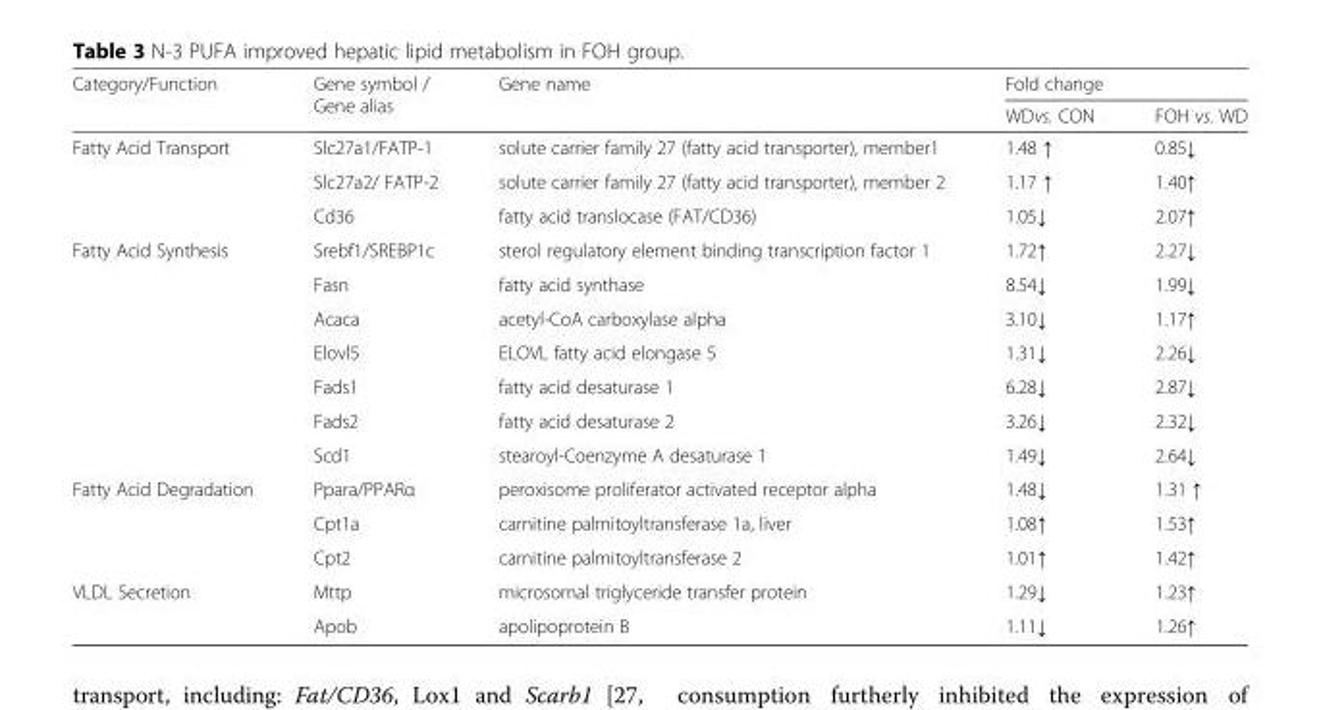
<table><thead><tr><td rowspan="2">Category/Function</td><td rowspan="2">Gene symbol / Gene alias</td><td rowspan="2">Gene name</td><td colspan="2">Fold change</td></tr><tr><td>WDvs. CON</td><td>FOH vs. WD</td></tr></thead><tbody><tr><td rowspan="3">Fatty Acid Transport</td><td>Slc27a1/FATP-1</td><td>solute carrier family 27 (fatty acid transporter), member1</td><td>1.48 ↑</td><td>0.85↓</td></tr><tr><td>Slc27a2/ FATP-2</td><td>solute carrier family 27 (fatty acid transporter), member 2</td><td>1.17 ↑</td><td>1.40↑</td></tr><tr><td>Cd36</td><td>fatty acid translocase (FAT/CD36)</td><td>1.05↓</td><td>2.07↑</td></tr><tr><td rowspan="7">Fatty Acid Synthesis</td><td>Srebf1/SREBP1c</td><td>sterol regulatory element binding transcription factor 1</td><td>1.72↑</td><td>2.27↓</td></tr><tr><td>Fasn</td><td>fatty acid synthase</td><td>8.54↓</td><td>1.99↓</td></tr><tr><td>Acaca</td><td>acetyl-CoA carboxylase alpha</td><td>3.10↓</td><td>1.17↑</td></tr><tr><td>Elovl5</td><td>ELOVL fatty acid elongase 5</td><td>1.31↓</td><td>2.26↓</td></tr><tr><td>Fads1</td><td>fatty acid desaturase 1</td><td>6.28↓</td><td>2.87↓</td></tr><tr><td>Fads2</td><td>fatty acid desaturase 2</td><td>3.26↓</td><td>2.32↓</td></tr><tr><td>Scd1</td><td>stearoyl-Coenzyme A desaturase 1</td><td>1.49↓</td><td>2.64↓</td></tr><tr><td rowspan="3">Fatty Acid Degradation</td><td>Ppara/PPARα</td><td>peroxisome proliferator activated receptor alpha</td><td>1.48↓</td><td>1.31 ↑</td></tr><tr><td>Cpt1a</td><td>carnitine palmitoyltransferase 1a, liver</td><td>1.08↑</td><td>1.53↑</td></tr><tr><td>Cpt2</td><td>carnitine palmitoyltransferase 2</td><td>1.01↑</td><td>1.42↑</td></tr><tr><td rowspan="2">VLDL Secretion</td><td>Mttp</td><td>microsomal triglyceride transfer protein</td><td>1.29↓</td><td>1.23↑</td></tr><tr><td>Apob</td><td>apolipoprotein B</td><td>1.11↓</td><td>1.26↑</td></tr></tbody></table>